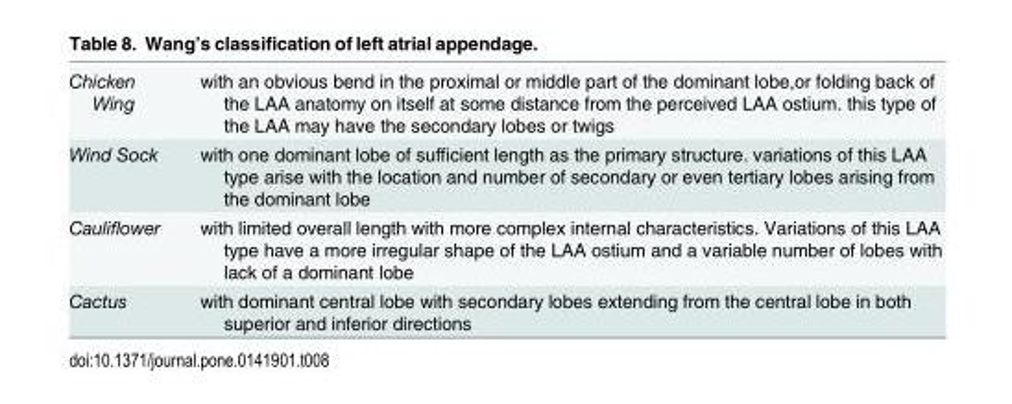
<table><tbody><tr><td>Chicken Wing</td><td>with an obvious bend in the proximal or middle part of the dominant lobe,or folding back of the LAA anatomy on itself at some distance from the perceived LAA ostium. this type of the LAA may have the secondary lobes or twigs</td></tr><tr><td>Wind Sock</td><td>with one dominant lobe of sufficient length as the primary structure. variations of this LAA type arise with the location and number of secondary or even tertiary lobes arising from the dominant lobe</td></tr><tr><td>Cauliflower</td><td>with limited overall length with more complex internal characteristics. Variations of this LAA type have a more irregular shape of the LAA ostium and a variable number of lobes with lack of a dominant lobe</td></tr><tr><td>Cactus</td><td>with dominant central lobe with secondary lobes extending from the central lobe in both superior and inferior directions</td></tr></tbody></table>